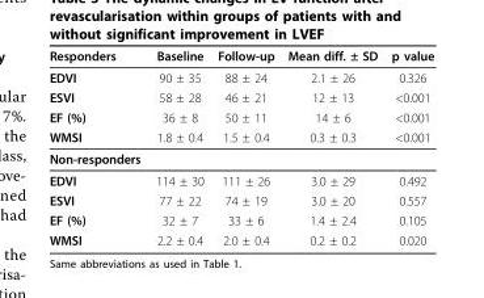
<table><thead><tr><td>Responders</td><td>Baseline</td><td>Follow-up</td><td>Mean diff. ± SD</td><td>p value</td></tr></thead><tbody><tr><td>EDVI</td><td>90 ± 35</td><td>88 ± 24</td><td>2.1 ± 26</td><td>0.326</td></tr><tr><td>ESVI</td><td>58 ± 28</td><td>46 ± 21</td><td>12 ± 13</td><td>&lt;0.001</td></tr><tr><td>EF (%)</td><td>36 ± 8</td><td>50 ± 11</td><td>14 ± 6</td><td>&lt;0.001</td></tr><tr><td>WMSI</td><td>1.8 ± 0.4</td><td>1.5 ± 0.4</td><td>0.3 ± 0.3</td><td>&lt;0.001</td></tr><tr><td colspan="5">Non-responders</td></tr><tr><td>EDVI</td><td>114 ± 30</td><td>111 ± 26</td><td>3.0 ± 29</td><td>0.492</td></tr><tr><td>ESVI</td><td>77 ± 22</td><td>74 ± 19</td><td>3.0 ± 20</td><td>0.557</td></tr><tr><td>EF (%)</td><td>32 ± 7</td><td>33 ± 6</td><td>1.4 ± 2.4</td><td>0.105</td></tr><tr><td>WMSI</td><td>2.2 ± 0.4</td><td>2.0 ± 0.4</td><td>0.2 ± 0.2</td><td>0.020</td></tr></tbody></table>